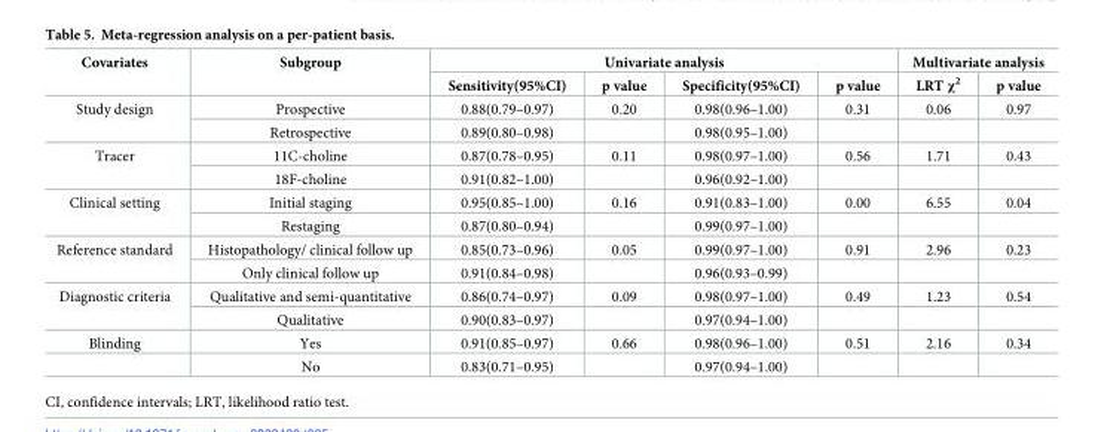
<table><thead><tr><td rowspan="2">Covariates</td><td rowspan="2">Subgroup</td><td colspan="4">Univariate analysis</td><td colspan="2">Multivariate analysis</td></tr><tr><td>Sensitivity(95%CI)</td><td>p value</td><td>Specificity(95%CI)</td><td>p value</td><td>LRT χ<sup>2</sup></td><td>p value</td></tr></thead><tbody><tr><td rowspan="2">Study design</td><td>Prospective</td><td>0.88(0.79–0.97)</td><td>0.20</td><td>0.98(0.96–1.00)</td><td>0.31</td><td>0.06</td><td>0.97</td></tr><tr><td>Retrospective</td><td>0.89(0.80–0.98)</td><td></td><td>0.98(0.95–1.00)</td><td></td><td></td><td></td></tr><tr><td rowspan="2">Tracer</td><td>11C-choline</td><td>0.87(0.78–0.95)</td><td>0.11</td><td>0.98(0.97–1.00)</td><td>0.56</td><td>1.71</td><td>0.43</td></tr><tr><td>18F-choline</td><td>0.91(0.82–1.00)</td><td></td><td>0.96(0.92–1.00)</td><td></td><td></td><td></td></tr><tr><td rowspan="2">Clinical setting</td><td>Initial staging</td><td>0.95(0.85–1.00)</td><td>0.16</td><td>0.91(0.83–1.00)</td><td>0.00</td><td>6.55</td><td>0.04</td></tr><tr><td>Restaging</td><td>0.87(0.80–0.94)</td><td></td><td>0.99(0.97–1.00)</td><td></td><td></td><td></td></tr><tr><td rowspan="2">Reference standard</td><td>Histopathology/ clinical follow up</td><td>0.85(0.73–0.96)</td><td>0.05</td><td>0.99(0.97–1.00)</td><td>0.91</td><td>2.96</td><td>0.23</td></tr><tr><td>Only clinical follow up</td><td>0.91(0.84–0.98)</td><td></td><td>0.96(0.93–0.99)</td><td></td><td></td><td></td></tr><tr><td rowspan="2">Diagnostic criteria</td><td>Qualitative and semi-quantitative</td><td>0.86(0.74–0.97)</td><td>0.09</td><td>0.98(0.97–1.00)</td><td>0.49</td><td>1.23</td><td>0.54</td></tr><tr><td>Qualitative</td><td>0.90(0.83–0.97)</td><td></td><td>0.97(0.94–1.00)</td><td></td><td></td><td></td></tr><tr><td rowspan="2">Blinding</td><td>Yes</td><td>0.91(0.85–0.97)</td><td>0.66</td><td>0.98(0.96–1.00)</td><td>0.51</td><td>2.16</td><td>0.34</td></tr><tr><td>No</td><td>0.83(0.71–0.95)</td><td></td><td>0.97(0.94–1.00)</td><td></td><td></td><td></td></tr></tbody></table>